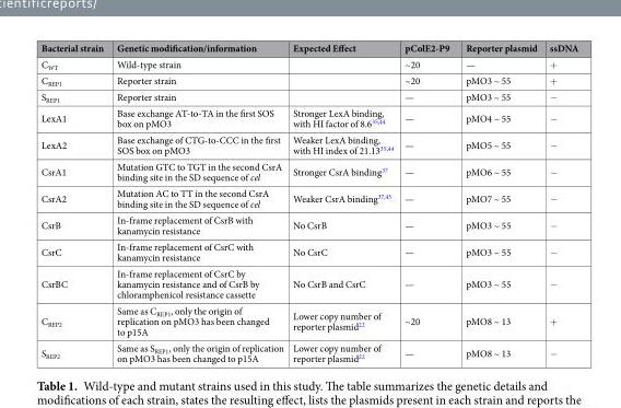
<table><thead><tr><td>Bacterial strain</td><td>Genetic modification/information</td><td>Expected Effect</td><td>pColE2-P9</td><td>Reporter plasmid</td><td>ssDNA</td></tr></thead><tbody><tr><td>C<sub>WT</sub></td><td>Wild-type strain</td><td></td><td>~20</td><td>—</td><td>+</td></tr><tr><td>C<sub>REP1</sub></td><td>Reporter strain</td><td></td><td>~20</td><td>pMO3 ~ 55</td><td>+</td></tr><tr><td>S<sub>REP1</sub></td><td>Reporter strain</td><td></td><td>—</td><td>pMO3 ~ 55</td><td>−</td></tr><tr><td>LexA1</td><td>Base exchange AT-to-TA in the first SOS box on pMO3</td><td>Stronger LexA binding, with HI factor of 8.6<sup>35,44</sup></td><td>—</td><td>pMO4 ~ 55</td><td>−</td></tr><tr><td>LexA2</td><td>Base exchange of CTG-to-CCC in the first SOS box on pMO3</td><td>Weaker LexA binding, with HI index of 21.13<sup>35,44</sup></td><td>—</td><td>pMO5 ~ 55</td><td>−</td></tr><tr><td>CsrA1</td><td>Mutation GTC to TGT in the second CsrA binding site in the SD sequence of cel</td><td>Stronger CsrA binding<sup>37</sup></td><td>—</td><td>pMO6 ~ 55</td><td>−</td></tr><tr><td>CsrA2</td><td>Mutation AC to TT in the second CsrA binding site in the SD sequence of cel</td><td>Weaker CsrA binding<sup>37,45</sup></td><td>—</td><td>pMO7 ~ 55</td><td>−</td></tr><tr><td>CsrB</td><td>In-frame replacement of CsrB with kanamycin resistance</td><td>No CsrB</td><td>—</td><td>pMO3 ~ 55</td><td>−</td></tr><tr><td>CsrC</td><td>In-frame replacement of CsrC with kanamycin resistance</td><td>No CsrC</td><td>—</td><td>pMO3 ~ 55</td><td>−</td></tr><tr><td>CsrBC</td><td>In-frame replacement of CsrC by kanamycin resistance and of CsrB by chloramphenicol resistance cassette</td><td>No CsrB and CsrC</td><td>—</td><td>pMO3 ~ 55</td><td>−</td></tr><tr><td>C<sub>REP2</sub></td><td>Same as C<sub>REP1</sub>, only the origin of replication on pMO3 has been changed to p15A</td><td>Lower copy number of reporter plasmid<sup>22</sup></td><td>~20</td><td>pMO8 ~ 13</td><td>+</td></tr><tr><td>S<sub>REP2</sub></td><td>Same as S<sub>REP1</sub>, only the origin of replication on pMO3 has been changed to p15A</td><td>Lower copy number of reporter plasmid<sup>22</sup></td><td>—</td><td>pMO8 ~ 13</td><td>−</td></tr></tbody></table>